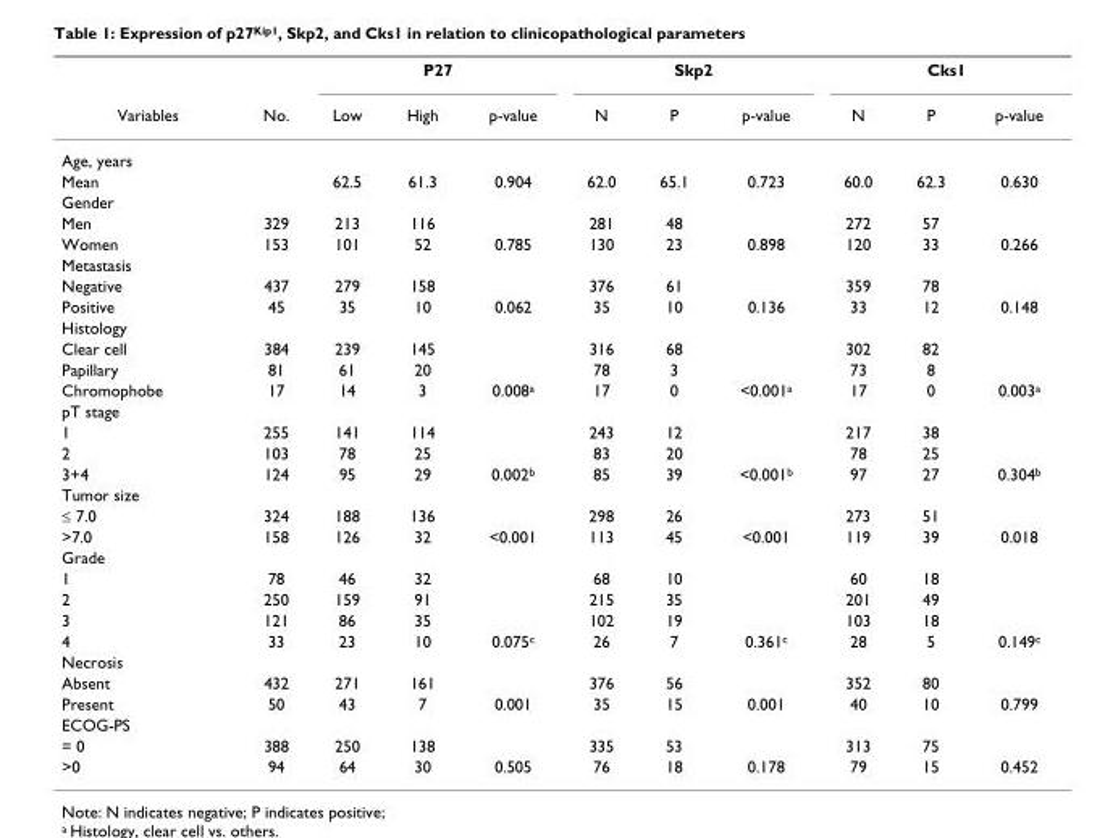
<table><thead><tr><td rowspan="2">Variables</td><td rowspan="2">No.</td><td colspan="3">P27</td><td colspan="3">Skp2</td><td colspan="3">Cks1</td></tr><tr><td>Low</td><td>High</td><td>p-value</td><td>N</td><td>P</td><td>p-value</td><td>N</td><td>P</td><td>p-value</td></tr></thead><tbody><tr><td colspan="11">Age, years</td></tr><tr><td>Mean</td><td></td><td>62.5</td><td>61.3</td><td>0.904</td><td>62.0</td><td>65.1</td><td>0.723</td><td>60.0</td><td>62.3</td><td>0.630</td></tr><tr><td colspan="11">Gender</td></tr><tr><td>Men</td><td>329</td><td>213</td><td>116</td><td></td><td>281</td><td>48</td><td></td><td>272</td><td>57</td><td></td></tr><tr><td>Women</td><td>153</td><td>101</td><td>52</td><td>0.785</td><td>130</td><td>23</td><td>0.898</td><td>120</td><td>33</td><td>0.266</td></tr><tr><td colspan="11">Metastasis</td></tr><tr><td>Negative</td><td>437</td><td>279</td><td>158</td><td></td><td>376</td><td>61</td><td></td><td>359</td><td>78</td><td></td></tr><tr><td>Positive</td><td>45</td><td>35</td><td>10</td><td>0.062</td><td>35</td><td>10</td><td>0.136</td><td>33</td><td>12</td><td>0.148</td></tr><tr><td colspan="11">Histology</td></tr><tr><td>Clear cell</td><td>384</td><td>239</td><td>145</td><td></td><td>316</td><td>68</td><td></td><td>302</td><td>82</td><td></td></tr><tr><td>Papillary</td><td>81</td><td>61</td><td>20</td><td></td><td>78</td><td>3</td><td></td><td>73</td><td>8</td><td></td></tr><tr><td>Chromophobe</td><td>17</td><td>14</td><td>3</td><td>0.008<sup>a</sup></td><td>17</td><td>0</td><td>&lt;0.001<sup>a</sup></td><td>17</td><td>0</td><td>0.003<sup>a</sup></td></tr><tr><td colspan="11">pT stage</td></tr><tr><td>1</td><td>255</td><td>141</td><td>114</td><td></td><td>243</td><td>12</td><td></td><td>217</td><td>38</td><td></td></tr><tr><td>2</td><td>103</td><td>78</td><td>25</td><td></td><td>83</td><td>20</td><td></td><td>78</td><td>25</td><td></td></tr><tr><td>3+4</td><td>124</td><td>95</td><td>29</td><td>0.002<sup>b</sup></td><td>85</td><td>39</td><td>&lt;0.001<sup>b</sup></td><td>97</td><td>27</td><td>0.304<sup>b</sup></td></tr><tr><td colspan="11">Tumor size</td></tr><tr><td>≤ 7.0</td><td>324</td><td>188</td><td>136</td><td></td><td>298</td><td>26</td><td></td><td>273</td><td>51</td><td></td></tr><tr><td>&gt;7.0</td><td>158</td><td>126</td><td>32</td><td>&lt;0.001</td><td>113</td><td>45</td><td>&lt;0.001</td><td>119</td><td>39</td><td>0.018</td></tr><tr><td colspan="11">Grade</td></tr><tr><td>1</td><td>78</td><td>46</td><td>32</td><td></td><td>68</td><td>10</td><td></td><td>60</td><td>18</td><td></td></tr><tr><td>2</td><td>250</td><td>159</td><td>91</td><td></td><td>215</td><td>35</td><td></td><td>201</td><td>49</td><td></td></tr><tr><td>3</td><td>121</td><td>86</td><td>35</td><td></td><td>102</td><td>19</td><td></td><td>103</td><td>18</td><td></td></tr><tr><td>4</td><td>33</td><td>23</td><td>10</td><td>0.075<sup>c</sup></td><td>26</td><td>7</td><td>0.361<sup>c</sup></td><td>28</td><td>5</td><td>0.149<sup>c</sup></td></tr><tr><td colspan="11">Necrosis</td></tr><tr><td>Absent</td><td>432</td><td>271</td><td>161</td><td></td><td>376</td><td>56</td><td></td><td>352</td><td>80</td><td></td></tr><tr><td>Present</td><td>50</td><td>43</td><td>7</td><td>0.001</td><td>35</td><td>15</td><td>0.001</td><td>40</td><td>10</td><td>0.799</td></tr><tr><td colspan="11">ECOG-PS</td></tr><tr><td>= 0</td><td>388</td><td>250</td><td>138</td><td></td><td>335</td><td>53</td><td></td><td>313</td><td>75</td><td></td></tr><tr><td>&gt;0</td><td>94</td><td>64</td><td>30</td><td>0.505</td><td>76</td><td>18</td><td>0.178</td><td>79</td><td>15</td><td>0.452</td></tr></tbody></table>